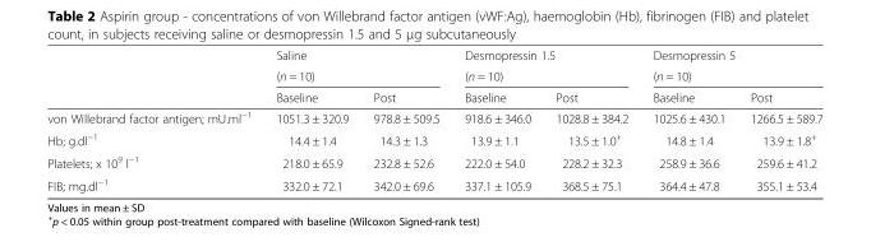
<table><thead><tr><td rowspan="3"></td><td rowspan="2" colspan="2">Saline (n = 10)</td><td rowspan="2" colspan="2">Desmopressin 1.5 (n = 10)</td><td rowspan="2" colspan="2">Desmopressin 5 (n = 10)</td></tr><tr></tr><tr><td>Baseline</td><td>Post</td><td>Baseline</td><td>Post</td><td>Baseline</td><td>Post</td></tr></thead><tbody><tr><td>von Willebrand factor antigen; mU.ml<sup>−1</sup></td><td>1051.3 ± 320.9</td><td>978.8 ± 509.5</td><td>918.6 ± 346.0</td><td>1028.8 ± 384.2</td><td>1025.6 ± 430.1</td><td>1266.5 ± 589.7</td></tr><tr><td>Hb; g.dl<sup>−1</sup></td><td>14.4 ± 1.4</td><td>14.3 ± 1.3</td><td>13.9 ± 1.1</td><td>13.5 ± 1.0<sup>+</sup></td><td>14.8 ± 1.4</td><td>13.9 ± 1.8<sup>+</sup></td></tr><tr><td>Platelets; x 10<sup>9</sup> l<sup>−1</sup></td><td>218.0 ± 65.9</td><td>232.8 ± 52.6</td><td>222.0 ± 54.0</td><td>228.2 ± 32.3</td><td>258.9 ± 36.6</td><td>259.6 ± 41.2</td></tr><tr><td>FIB; mg.dl<sup>−1</sup></td><td>332.0 ± 72.1</td><td>342.0 ± 69.6</td><td>337.1 ± 105.9</td><td>368.5 ± 75.1</td><td>364.4 ± 47.8</td><td>355.1 ± 53.4</td></tr></tbody></table>